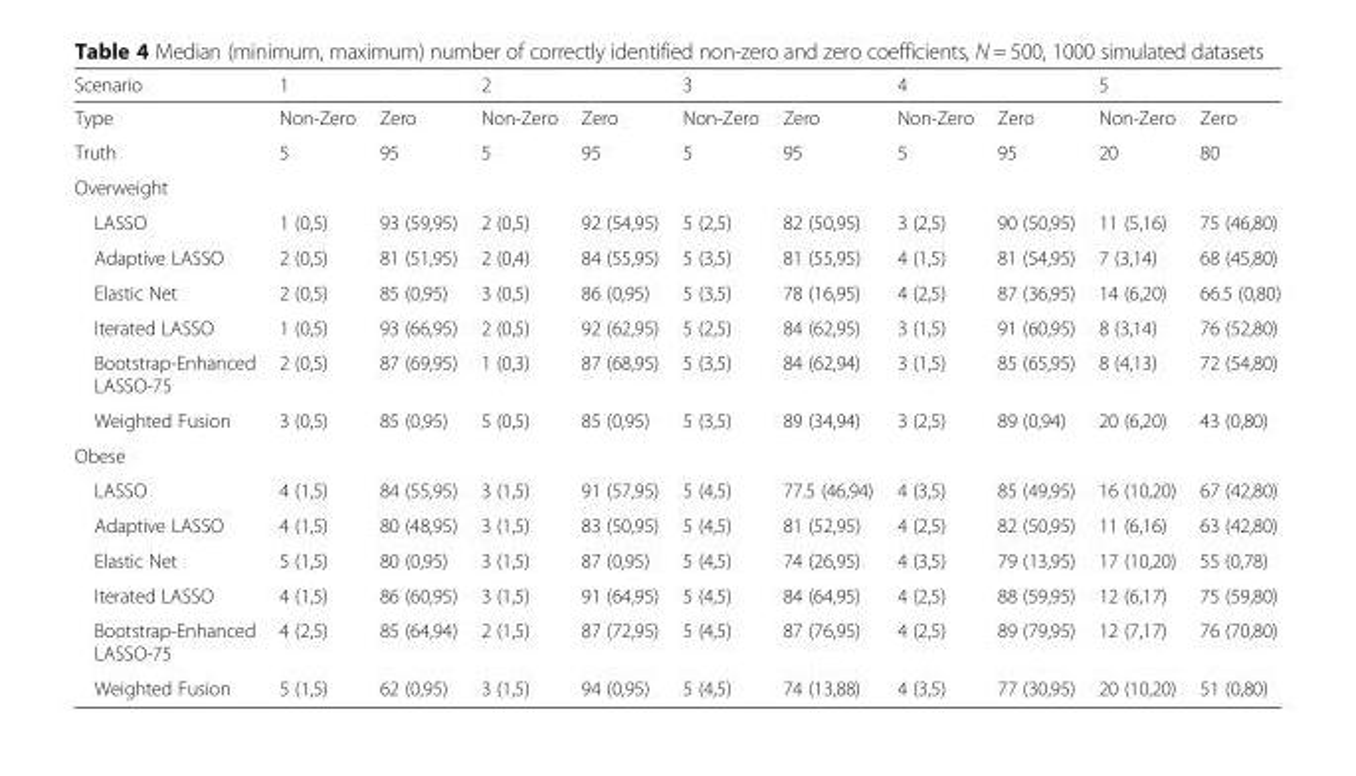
<table><thead><tr><td rowspan="2">Scenario Type</td><td colspan="2">1</td><td colspan="2">2</td><td colspan="2">3</td><td colspan="2">4</td><td colspan="2">5</td></tr><tr><td>Non-Zero</td><td>Zero</td><td>Non-Zero</td><td>Zero</td><td>Non-Zero</td><td>Zero</td><td>Non-Zero</td><td>Zero</td><td>Non-Zero</td><td>Zero</td></tr></thead><tbody><tr><td>Truth</td><td>5</td><td>95</td><td>5</td><td>95</td><td>5</td><td>95</td><td>5</td><td>95</td><td>20</td><td>80</td></tr><tr><td colspan="11">Overweight</td></tr><tr><td>LASSO</td><td>1 (0,5)</td><td>93 (59,95)</td><td>2 (0,5)</td><td>92 (54,95)</td><td>5 (2,5)</td><td>82 (50,95)</td><td>3 (2,5)</td><td>90 (50,95)</td><td>11 (5,16)</td><td>75 (46,80)</td></tr><tr><td>Adaptive LASSO</td><td>2 (0,5)</td><td>81 (51,95)</td><td>2 (0,4)</td><td>84 (55,95)</td><td>5 (3,5)</td><td>81 (55,95)</td><td>4 (1,5)</td><td>81 (54,95)</td><td>7 (3,14)</td><td>68 (45,80)</td></tr><tr><td>Elastic Net</td><td>2 (0,5)</td><td>85 (0,95)</td><td>3 (0,5)</td><td>86 (0,95)</td><td>5 (3,5)</td><td>78 (16,95)</td><td>4 (2,5)</td><td>87 (36,95)</td><td>14 (6,20)</td><td>66.5 (0,80)</td></tr><tr><td>Iterated LASSO</td><td>1 (0,5)</td><td>93 (66,95)</td><td>2 (0,5)</td><td>92 (62,95)</td><td>5 (2,5)</td><td>84 (62,95)</td><td>3 (1,5)</td><td>91 (60,95)</td><td>8 (3,14)</td><td>76 (52,80)</td></tr><tr><td>Bootstrap-Enhanced LASSO-75</td><td>2 (0,5)</td><td>87 (69,95)</td><td>1 (0,3)</td><td>87 (68,95)</td><td>5 (3,5)</td><td>84 (62,94)</td><td>3 (1,5)</td><td>85 (65,95)</td><td>8 (4,13)</td><td>72 (54,80)</td></tr><tr><td>Weighted Fusion</td><td>3 (0,5)</td><td>85 (0,95)</td><td>5 (0,5)</td><td>85 (0,95)</td><td>5 (3,5)</td><td>89 (34,94)</td><td>3 (2,5)</td><td>89 (0,94)</td><td>20 (6,20)</td><td>43 (0,80)</td></tr><tr><td colspan="11">Obese</td></tr><tr><td>LASSO</td><td>4 (1,5)</td><td>84 (55,95)</td><td>3 (1,5)</td><td>91 (57,95)</td><td>5 (4,5)</td><td>77.5 (46,94)</td><td>4 (3,5)</td><td>85 (49,95)</td><td>16 (10,20)</td><td>67 (42,80)</td></tr><tr><td>Adaptive LASSO</td><td>4 (1,5)</td><td>80 (48,95)</td><td>3 (1,5)</td><td>83 (50,95)</td><td>5 (4,5)</td><td>81 (52,95)</td><td>4 (2,5)</td><td>82 (50,95)</td><td>11 (6,16)</td><td>63 (42,80)</td></tr><tr><td>Elastic Net</td><td>5 (1,5)</td><td>80 (0,95)</td><td>3 (1,5)</td><td>87 (0,95)</td><td>5 (4,5)</td><td>74 (26,95)</td><td>4 (3,5)</td><td>79 (13,95)</td><td>17 (10,20)</td><td>55 (0,78)</td></tr><tr><td>Iterated LASSO</td><td>4 (1,5)</td><td>86 (60,95)</td><td>3 (1,5)</td><td>91 (64,95)</td><td>5 (4,5)</td><td>84 (64,95)</td><td>4 (2,5)</td><td>88 (59,95)</td><td>12 (6,17)</td><td>75 (59,80)</td></tr><tr><td>Bootstrap-Enhanced LASSO-75</td><td>4 (2,5)</td><td>85 (64,94)</td><td>2 (1,5)</td><td>87 (72,95)</td><td>5 (4,5)</td><td>87 (76,95)</td><td>4 (2,5)</td><td>89 (79,95)</td><td>12 (7,17)</td><td>76 (70,80)</td></tr><tr><td>Weighted Fusion</td><td>5 (1,5)</td><td>62 (0,95)</td><td>3 (1,5)</td><td>94 (0,95)</td><td>5 (4,5)</td><td>74 (13,88)</td><td>4 (3,5)</td><td>77 (30,95)</td><td>20 (10,20)</td><td>51 (0,80)</td></tr></tbody></table>